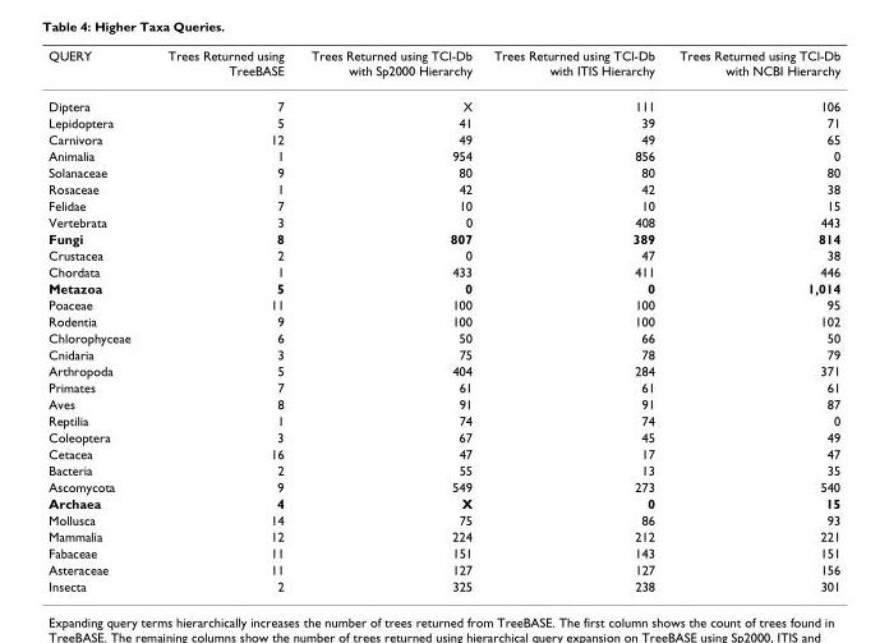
<table><thead><tr><td>QUERY</td><td>Trees Returned using TreeBASE</td><td>Trees Returned using TCl-Db with Sp2000 Hierarchy</td><td>Trees Returned using TCl-Db with ITIS Hierarchy</td><td>Trees Returned using TCl-Db with NCBI Hierarchy</td></tr></thead><tbody><tr><td>Diptera</td><td>7</td><td>X</td><td>111</td><td>106</td></tr><tr><td>Lepidoptera</td><td>5</td><td>41</td><td>39</td><td>71</td></tr><tr><td>Carnivora</td><td>12</td><td>49</td><td>49</td><td>65</td></tr><tr><td>Animalia</td><td>1</td><td>954</td><td>856</td><td>0</td></tr><tr><td>Solanaceae</td><td>9</td><td>80</td><td>80</td><td>80</td></tr><tr><td>Rosaceae</td><td>1</td><td>42</td><td>42</td><td>38</td></tr><tr><td>Felidae</td><td>7</td><td>10</td><td>10</td><td>15</td></tr><tr><td>Vertebrata</td><td>3</td><td>0</td><td>408</td><td>443</td></tr><tr><td>Fungi</td><td>8</td><td>807</td><td>389</td><td>814</td></tr><tr><td>Crustacea</td><td>2</td><td>0</td><td>47</td><td>38</td></tr><tr><td>Chordata</td><td>1</td><td>433</td><td>411</td><td>446</td></tr><tr><td>Metazoa</td><td>5</td><td>0</td><td>0</td><td>1,014</td></tr><tr><td>Poaceae</td><td>11</td><td>100</td><td>100</td><td>95</td></tr><tr><td>Rodentia</td><td>9</td><td>100</td><td>100</td><td>102</td></tr><tr><td>Chlorophyceae</td><td>6</td><td>50</td><td>66</td><td>50</td></tr><tr><td>Cnidaria</td><td>3</td><td>75</td><td>78</td><td>79</td></tr><tr><td>Arthropoda</td><td>5</td><td>404</td><td>284</td><td>371</td></tr><tr><td>Primates</td><td>7</td><td>61</td><td>61</td><td>61</td></tr><tr><td>Aves</td><td>8</td><td>91</td><td>91</td><td>87</td></tr><tr><td>Reptilia</td><td>1</td><td>74</td><td>74</td><td>0</td></tr><tr><td>Coleoptera</td><td>3</td><td>67</td><td>45</td><td>49</td></tr><tr><td>Cetacea</td><td>16</td><td>47</td><td>17</td><td>47</td></tr><tr><td>Bacteria</td><td>2</td><td>55</td><td>13</td><td>35</td></tr><tr><td>Ascomycota</td><td>9</td><td>549</td><td>273</td><td>540</td></tr><tr><td>Archaea</td><td>4</td><td>X</td><td>0</td><td>15</td></tr><tr><td>Mollusca</td><td>14</td><td>75</td><td>86</td><td>93</td></tr><tr><td>Mammalia</td><td>12</td><td>224</td><td>212</td><td>221</td></tr><tr><td>Fabaceae</td><td>11</td><td>151</td><td>143</td><td>151</td></tr><tr><td>Asteraceae</td><td>11</td><td>127</td><td>127</td><td>156</td></tr><tr><td>Insecta</td><td>2</td><td>325</td><td>238</td><td>301</td></tr></tbody></table>